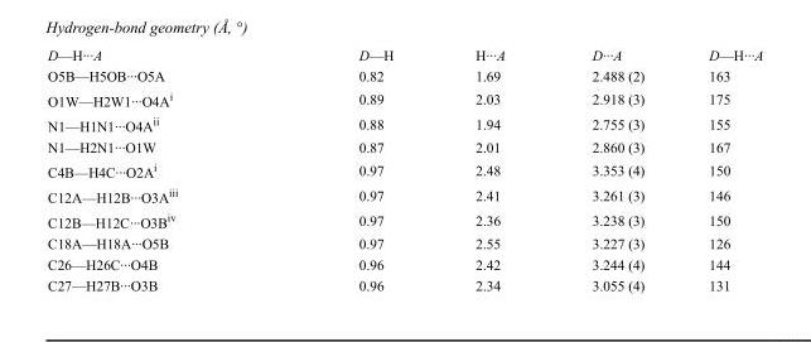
<table><tbody><tr><td>D—H···A</td><td>D—H</td><td>H···A</td><td>D···A</td><td>D—H···A</td></tr><tr><td>O5B—H5OB···O5A</td><td>0.82</td><td>1.69</td><td>2.488 (2)</td><td>163</td></tr><tr><td>O1W—H2W1···O4A<sup>i</sup></td><td>0.89</td><td>2.03</td><td>2.918 (3)</td><td>175</td></tr><tr><td>N1—H1N1···O4A<sup>ii</sup></td><td>0.88</td><td>1.94</td><td>2.755 (3)</td><td>155</td></tr><tr><td>N1—H2N1···O1W</td><td>0.87</td><td>2.01</td><td>2.860 (3)</td><td>167</td></tr><tr><td>C4B—H4C···O2A<sup>i</sup></td><td>0.97</td><td>2.48</td><td>3.353 (4)</td><td>150</td></tr><tr><td>C12A—H12B···O3A<sup>iii</sup></td><td>0.97</td><td>2.41</td><td>3.261 (3)</td><td>146</td></tr><tr><td>C12B—H12C···O3B<sup>iv</sup></td><td>0.97</td><td>2.36</td><td>3.238 (3)</td><td>150</td></tr><tr><td>C18A—H18A···O5B</td><td>0.97</td><td>2.55</td><td>3.227 (3)</td><td>126</td></tr><tr><td>C26—H26C···O4B</td><td>0.96</td><td>2.42</td><td>3.244 (4)</td><td>144</td></tr><tr><td>C27—H27B···O3B</td><td>0.96</td><td>2.34</td><td>3.055 (4)</td><td>131</td></tr></tbody></table>